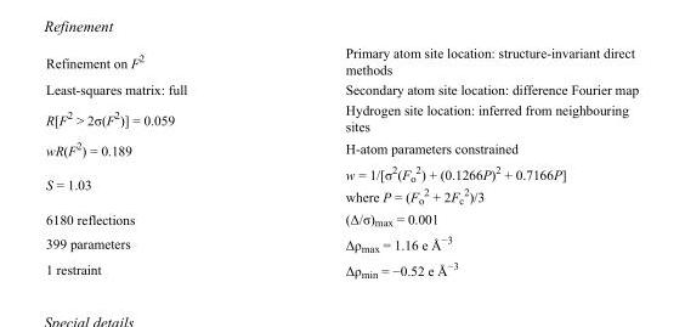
<table><tbody><tr><td>Refinement on F<sup>2</sup></td><td>Primary atom site location: structure-invariant direct methods</td></tr><tr><td>Least-squares matrix: full</td><td>Secondary atom site location: difference Fourier map</td></tr><tr><td>R[F<sup>2</sup> &gt; 2σ(F<sup>2</sup>)] = 0.059</td><td>Hydrogen site location: inferred from neighbouring sites</td></tr><tr><td>wR(F<sup>2</sup>) = 0.189</td><td>H-atom parameters constrained</td></tr><tr><td>S = 1.03</td><td>w = 1/[σ<sup>2</sup>(F<sub>o</sub> <sup>2</sup>) + (0.1266P)<sup>2</sup> + 0.7166P] where P = (F<sub>o</sub> <sup>2</sup> + 2F<sub>c</sub> <sup>2</sup>)/3</td></tr><tr><td>6180 reflections</td><td>(Δ/σ)<sub>max</sub> = 0.001</td></tr><tr><td>399 parameters</td><td>Δρ<sub>max</sub> = 1.16 e Å<sup>−3</sup></td></tr><tr><td>1 restraint</td><td>Δρ<sub>min</sub> = −0.52 e Å<sup>−3</sup></td></tr></tbody></table>